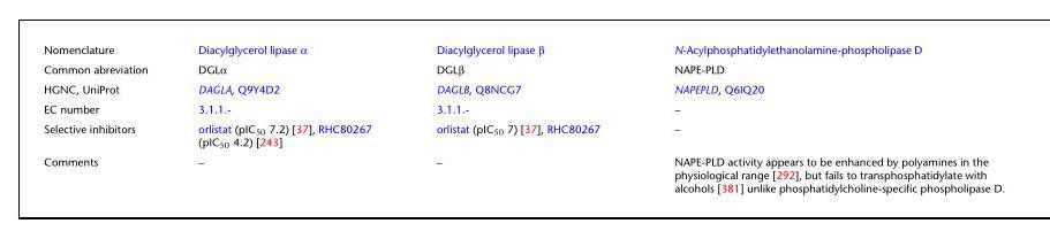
<table><tbody><tr><td>Nomenclature</td><td>Diacylglycerol lipase α</td><td>Diacylglycerol lipase β</td><td>N-Acylphosphatidylethanolamine-phospholipase D</td></tr><tr><td>Common abreviation</td><td>DGLα</td><td>DGLβ</td><td>NAPE-PLD</td></tr><tr><td>HGNC, UniProt</td><td>DAGLA, Q9Y4D2</td><td>DAGLB, Q8NCG7</td><td>NAPEPLD, Q6IQ20</td></tr><tr><td>EC number</td><td>3.1.1.-</td><td>3.1.1.-</td><td>–</td></tr><tr><td>Selective inhibitors</td><td>orlistat (pIC<sub>50</sub> 7.2) [37], RHC80267 (pIC<sub>50</sub> 4.2) [243]</td><td>orlistat (pIC<sub>50</sub> 7) [37], RHC80267</td><td>–</td></tr><tr><td>Comments</td><td>–</td><td>–</td><td>NAPE-PLD activity appears to be enhanced by polyamines in the physiological range [292], but fails to transphosphatidylate with alcohols [381] unlike phosphatidylcholine-specific phospholipase D.</td></tr></tbody></table>